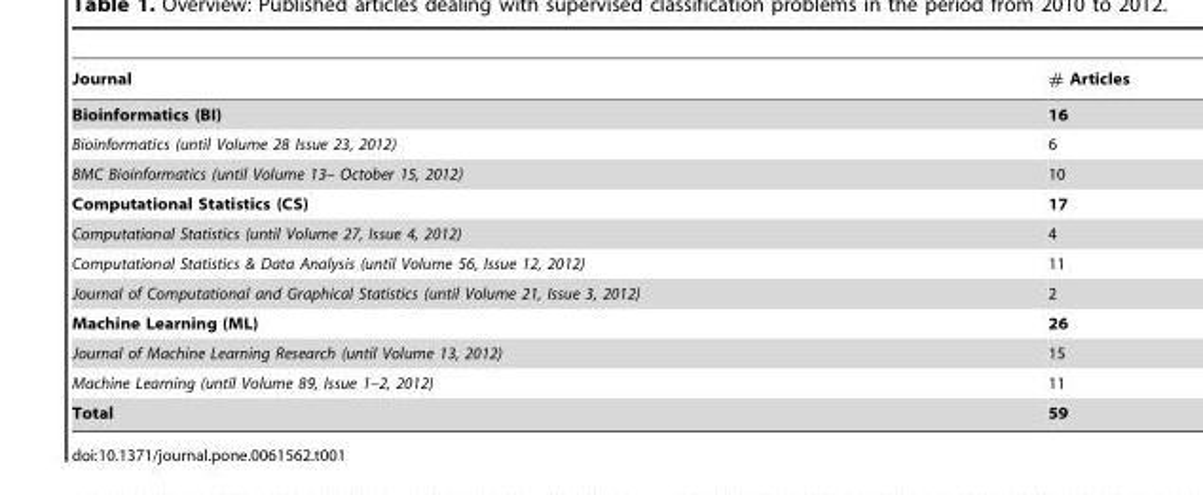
<table><thead><tr><td>Journal</td><td># Articles</td></tr></thead><tbody><tr><td>Bioinformatics (BI)</td><td>16</td></tr><tr><td>Bioinformatics (until Volume 28 Issue 23, 2012)</td><td>6</td></tr><tr><td>BMC Bioinformatics (until Volume 13– October 15, 2012)</td><td>10</td></tr><tr><td>Computational Statistics (CS)</td><td>17</td></tr><tr><td>Computational Statistics (until Volume 27, Issue 4, 2012)</td><td>4</td></tr><tr><td>Computational Statistics &amp; Data Analysis (until Volume 56, Issue 12, 2012)</td><td>11</td></tr><tr><td>Journal of Computational and Graphical Statistics (until Volume 21, Issue 3, 2012)</td><td>2</td></tr><tr><td>Machine Learning (ML)</td><td>26</td></tr><tr><td>Journal of Machine Learning Research (until Volume 13, 2012)</td><td>15</td></tr><tr><td>Machine Learning (until Volume 89, Issue 1–2, 2012)</td><td>11</td></tr><tr><td>Total</td><td>59</td></tr></tbody></table>